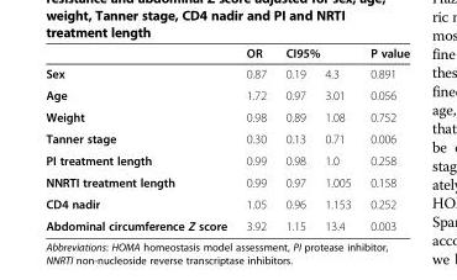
<table><thead><tr><td rowspan="2">Sex</td><td rowspan="2">OR 0.87</td><td colspan="2">CI95%</td><td rowspan="2">P value 0.891</td></tr><tr><td>0.19</td><td>4.3</td></tr></thead><tbody><tr><td>Age</td><td>1.72</td><td>0.97</td><td>3.01</td><td>0.056</td></tr><tr><td>Weight</td><td>0.98</td><td>0.89</td><td>1.08</td><td>0.752</td></tr><tr><td>Tanner stage</td><td>0.30</td><td>0.13</td><td>0.71</td><td>0.006</td></tr><tr><td>PI treatment length</td><td>0.99</td><td>0.98</td><td>1.0</td><td>0.258</td></tr><tr><td>NNRTI treatment length</td><td>0.99</td><td>0.97</td><td>1.005</td><td>0.158</td></tr><tr><td>CD4 nadir</td><td>1.05</td><td>0.96</td><td>1.153</td><td>0.252</td></tr><tr><td>Abdominal circumference Z score</td><td>3.92</td><td>1.15</td><td>13.4</td><td>0.003</td></tr></tbody></table>